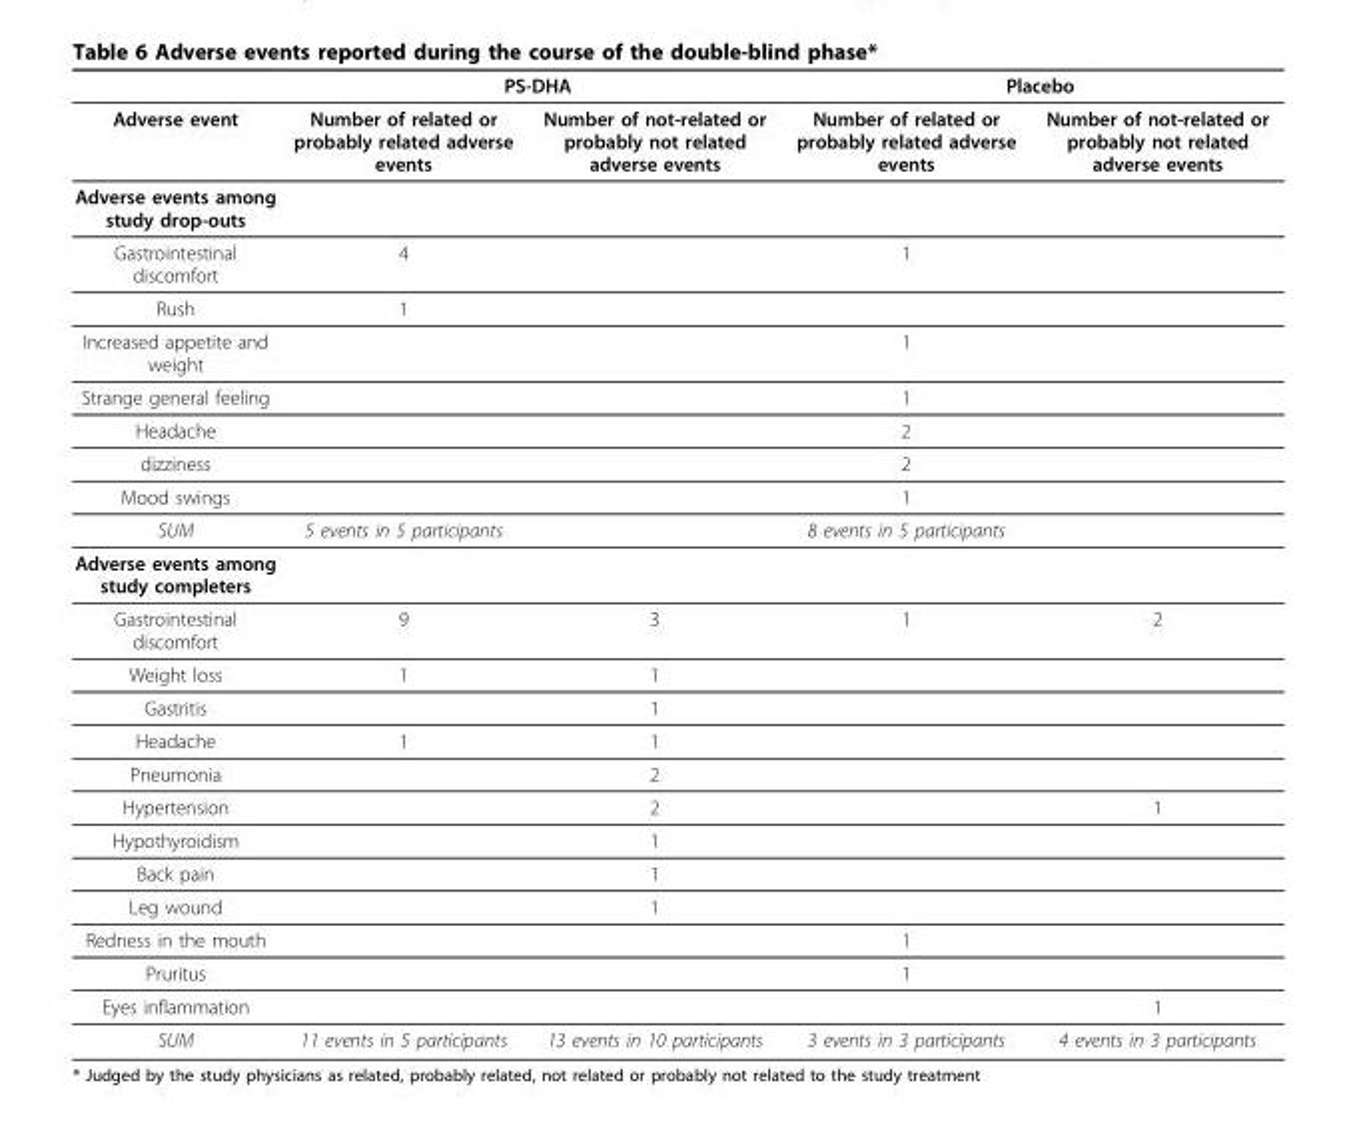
<table><thead><tr><td rowspan="2">Adverse event</td><td colspan="2">PS-DHA</td><td colspan="2">Placebo</td></tr><tr><td>Number of related or probably related adverse events</td><td>Number of not-related or probably not related adverse events</td><td>Number of related or probably related adverse events</td><td>Number of not-related or probably not related adverse events</td></tr></thead><tbody><tr><td colspan="5">Adverse events among study drop-outs</td></tr><tr><td>Gastrointestinal discomfort</td><td>4</td><td></td><td>1</td><td></td></tr><tr><td>Rush</td><td>1</td><td></td><td></td><td></td></tr><tr><td>Increased appetite and weight</td><td></td><td></td><td>1</td><td></td></tr><tr><td>Strange general feeling</td><td></td><td></td><td>1</td><td></td></tr><tr><td>Headache</td><td></td><td></td><td>2</td><td></td></tr><tr><td>dizziness</td><td></td><td></td><td>2</td><td></td></tr><tr><td>Mood swings</td><td></td><td></td><td>1</td><td></td></tr><tr><td>SUM</td><td>5 events in 5 participants</td><td></td><td>8 events in 5 participants</td><td></td></tr><tr><td colspan="5">Adverse events among study completers</td></tr><tr><td>Gastrointestinal discomfort</td><td>9</td><td>3</td><td>1</td><td>2</td></tr><tr><td>Weight loss</td><td>1</td><td>1</td><td></td><td></td></tr><tr><td>Gastritis</td><td></td><td>1</td><td></td><td></td></tr><tr><td>Headache</td><td>1</td><td>1</td><td></td><td></td></tr><tr><td>Pneumonia</td><td></td><td>2</td><td></td><td></td></tr><tr><td>Hypertension</td><td></td><td>2</td><td></td><td>1</td></tr><tr><td>Hypothyroidism</td><td></td><td>1</td><td></td><td></td></tr><tr><td>Back pain</td><td></td><td>1</td><td></td><td></td></tr><tr><td>Leg wound</td><td></td><td>1</td><td></td><td></td></tr><tr><td>Redness in the mouth</td><td></td><td></td><td>1</td><td></td></tr><tr><td>Pruritus</td><td></td><td></td><td>1</td><td></td></tr><tr><td>Eyes inflammation</td><td></td><td></td><td></td><td>1</td></tr><tr><td>SUM</td><td>11 events in 5 participants</td><td>13 events in 10 participants</td><td>3 events in 3 participants</td><td>4 events in 3 participants</td></tr></tbody></table>